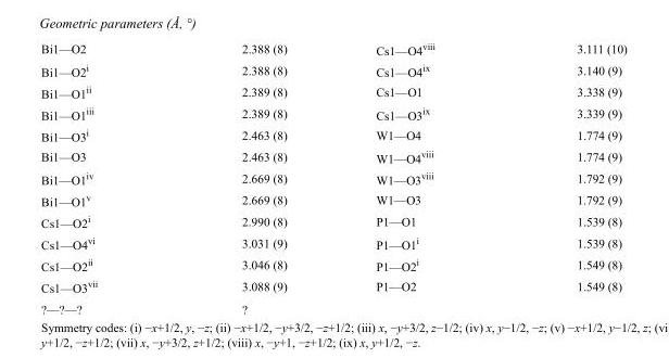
<table><tbody><tr><td>Bi1—O2</td><td>2.388 (8)</td><td>Cs1—O4<sup>viii</sup></td><td>3.111 (10)</td></tr><tr><td>Bi1—O2<sup>i</sup></td><td>2.388 (8)</td><td>Cs1—O4<sup>ix</sup></td><td>3.140 (9)</td></tr><tr><td>Bi1—O1<sup>ii</sup></td><td>2.389 (8)</td><td>Cs1—O1</td><td>3.338 (9)</td></tr><tr><td>Bi1—O1<sup>iii</sup></td><td>2.389 (8)</td><td>Cs1—O3<sup>ix</sup></td><td>3.339 (9)</td></tr><tr><td>Bi1—O3<sup>i</sup></td><td>2.463 (8)</td><td>W1—O4</td><td>1.774 (9)</td></tr><tr><td>Bi1—O3</td><td>2.463 (8)</td><td>W1—O4<sup>viii</sup></td><td>1.774 (9)</td></tr><tr><td>Bi1—O1<sup>iv</sup></td><td>2.669 (8)</td><td>W1—O3<sup>viii</sup></td><td>1.792 (9)</td></tr><tr><td>Bi1—O1<sup>v</sup></td><td>2.669 (8)</td><td>W1—O3</td><td>1.792 (9)</td></tr><tr><td>Cs1—O2<sup>i</sup></td><td>2.990 (8)</td><td>P1—O1</td><td>1.539 (8)</td></tr><tr><td>Cs1—O4<sup>vi</sup></td><td>3.031 (9)</td><td>P1—O1<sup>i</sup></td><td>1.539 (8)</td></tr><tr><td>Cs1—O2<sup>ii</sup></td><td>3.046 (8)</td><td>P1—O2<sup>i</sup></td><td>1.549 (8)</td></tr><tr><td>Cs1—O3<sup>vii</sup></td><td>3.088 (9)</td><td>P1—O2</td><td>1.549 (8)</td></tr><tr><td>?—?—?</td><td>?</td><td></td><td></td></tr></tbody></table>